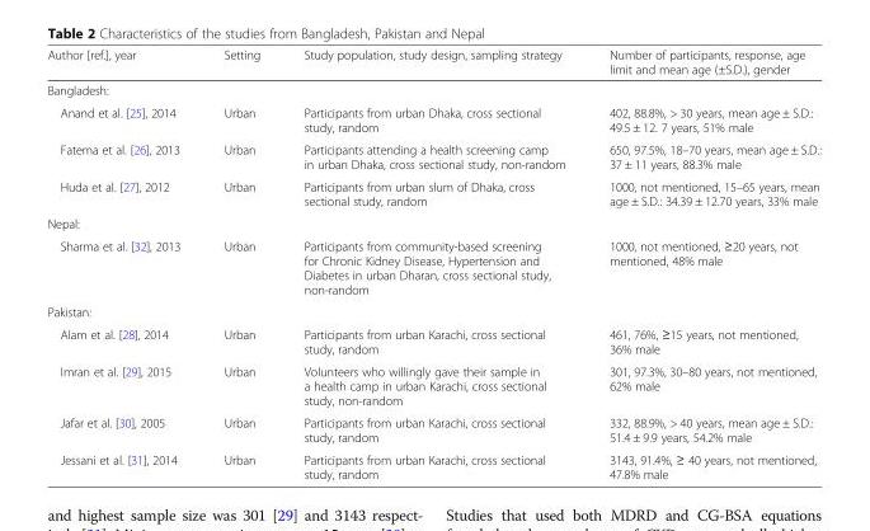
<table><thead><tr><td>Author [ref.], year</td><td>Setting</td><td>Study population, study design, sampling strategy</td><td>Number of participants, response, age limit and mean age (±S.D.), gender</td></tr></thead><tbody><tr><td colspan="4">Bangladesh:</td></tr><tr><td>Anand et al. [25], 2014</td><td>Urban</td><td>Participants from urban Dhaka, cross sectional study, random</td><td>402, 88.8%, &gt; 30 years, mean age ± S.D.: 49.5 ± 12. 7 years, 51% male</td></tr><tr><td>Fatema et al. [26], 2013</td><td>Urban</td><td>Participants attending a health screening camp in urban Dhaka, cross sectional study, non-random</td><td>650, 97.5%, 18–70 years, mean age ± S.D.: 37 ± 11 years, 88.3% male</td></tr><tr><td>Huda et al. [27], 2012</td><td>Urban</td><td>Participants from urban slum of Dhaka, cross sectional study, random</td><td>1000, not mentioned, 15–65 years, mean age ± S.D.: 34.39 ± 12.70 years, 33% male</td></tr><tr><td colspan="4">Nepal:</td></tr><tr><td>Sharma et al. [32], 2013</td><td>Urban</td><td>Participants from community-based screening for Chronic Kidney Disease, Hypertension and Diabetes in urban Dharan, cross sectional study, non-random</td><td>1000, not mentioned, ≥20 years, not mentioned, 48% male</td></tr><tr><td colspan="4">Pakistan:</td></tr><tr><td>Alam et al. [28], 2014</td><td>Urban</td><td>Participants from urban Karachi, cross sectional study, random</td><td>461, 76%, ≥15 years, not mentioned, 36% male</td></tr><tr><td>Imran et al. [29], 2015</td><td>Urban</td><td>Volunteers who willingly gave their sample in a health camp in urban Karachi, cross sectional study, non-random</td><td>301, 97.3%, 30–80 years, not mentioned, 62% male</td></tr><tr><td>Jafar et al. [30], 2005</td><td>Urban</td><td>Participants from urban Karachi, cross sectional study, random</td><td>332, 88.9%, &gt; 40 years, mean age ± S.D.: 51.4 ± 9.9 years, 54.2% male</td></tr><tr><td>Jessani et al. [31], 2014</td><td>Urban</td><td>Participants from urban Karachi, cross sectional study, random</td><td>3143, 91.4%, ≥ 40 years, not mentioned, 47.8% male</td></tr></tbody></table>